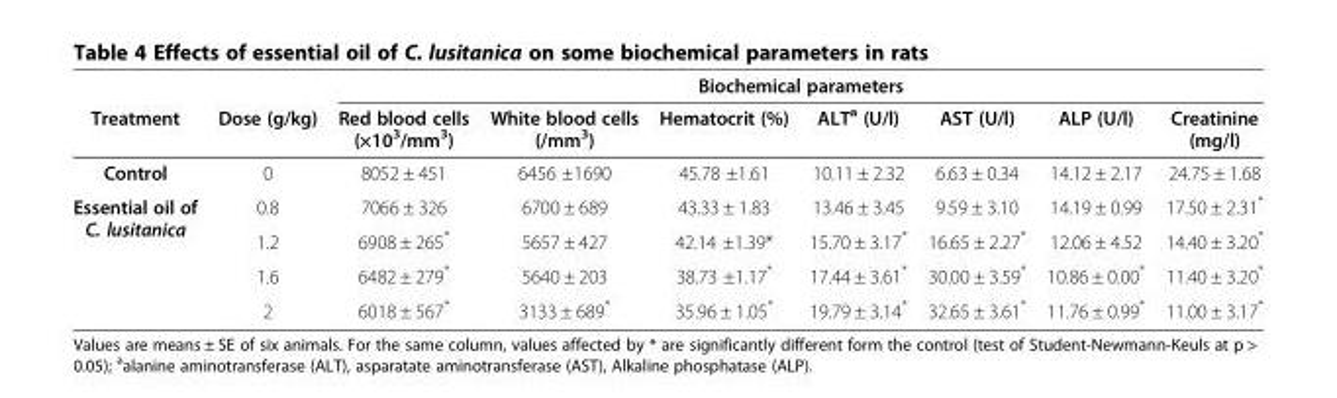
<table><thead><tr><td rowspan="2">Treatment</td><td rowspan="2">Dose (g/kg)</td><td colspan="7">Biochemical parameters</td></tr><tr><td>Red blood cells (×10<sup>3</sup>/mm<sup>3</sup>)</td><td>White blood cells (/mm<sup>3</sup>)</td><td>Hematocrit (%)</td><td>ALT<sup>a</sup> (U/l)</td><td>AST (U/l)</td><td>ALP (U/l)</td><td>Creatinine (mg/l)</td></tr></thead><tbody><tr><td>Control</td><td>0</td><td>8052 ± 451</td><td>6456 ±1690</td><td>45.78 ±1.61</td><td>10.11 ± 2.32</td><td>6.63 ± 0.34</td><td>14.12 ± 2.17</td><td>24.75 ± 1.68</td></tr><tr><td rowspan="4">Essential oil of C. lusitanica</td><td>0.8</td><td>7066 ± 326</td><td>6700 ± 689</td><td>43.33 ± 1.83</td><td>13.46 ± 3.45</td><td>9.59 ± 3.10</td><td>14.19 ± 0.99</td><td>17.50 ± 2.31*</td></tr><tr><td>1.2</td><td>6908 ± 265*</td><td>5657 ± 427</td><td>42.14 ±1.39*</td><td>15.70 ± 3.17*</td><td>16.65 ± 2.27*</td><td>12.06 ± 4.52</td><td>14.40 ± 3.20*</td></tr><tr><td>1.6</td><td>6482 ± 279*</td><td>5640 ± 203</td><td>38.73 ±1.17*</td><td>17.44 ± 3.61*</td><td>30.00 ± 3.59*</td><td>10.86 ± 0.00*</td><td>11.40 ± 3.20*</td></tr><tr><td>2</td><td>6018 ± 567*</td><td>3133 ± 689*</td><td>35.96 ± 1.05*</td><td>19.79 ± 3.14*</td><td>32.65 ± 3.61*</td><td>11.76 ± 0.99*</td><td>11.00 ± 3.17*</td></tr></tbody></table>